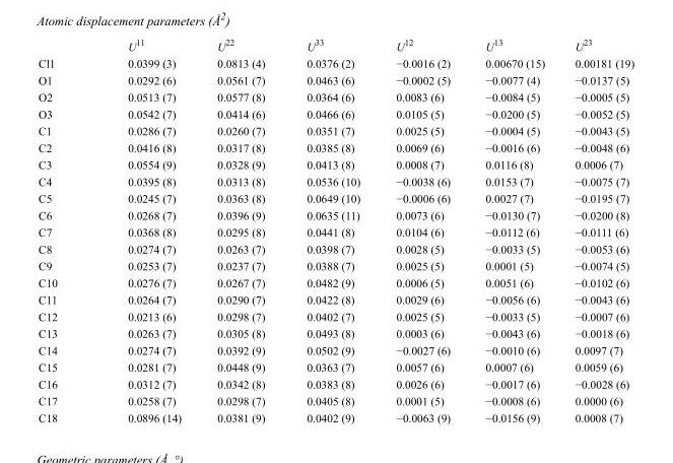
<table><thead><tr><td></td><td>U<sup>11</sup></td><td>U<sup>22</sup></td><td>U<sup>33</sup></td><td>U<sup>12</sup></td><td>U<sup>13</sup></td><td>U<sup>23</sup></td></tr></thead><tbody><tr><td>Cl1</td><td>0.0399 (3)</td><td>0.0813 (4)</td><td>0.0376 (2)</td><td>−0.0016 (2)</td><td>0.00670 (15)</td><td>0.00181 (19)</td></tr><tr><td>O1</td><td>0.0292 (6)</td><td>0.0561 (7)</td><td>0.0463 (6)</td><td>−0.0002 (5)</td><td>−0.0077 (4)</td><td>−0.0137 (5)</td></tr><tr><td>O2</td><td>0.0513 (7)</td><td>0.0577 (8)</td><td>0.0364 (6)</td><td>0.0083 (6)</td><td>−0.0084 (5)</td><td>−0.0005 (5)</td></tr><tr><td>O3</td><td>0.0542 (7)</td><td>0.0414 (6)</td><td>0.0466 (6)</td><td>0.0105 (5)</td><td>−0.0200 (5)</td><td>−0.0052 (5)</td></tr><tr><td>C1</td><td>0.0286 (7)</td><td>0.0260 (7)</td><td>0.0351 (7)</td><td>0.0025 (5)</td><td>−0.0004 (5)</td><td>−0.0043 (5)</td></tr><tr><td>C2</td><td>0.0416 (8)</td><td>0.0317 (8)</td><td>0.0385 (8)</td><td>0.0069 (6)</td><td>−0.0016 (6)</td><td>−0.0048 (6)</td></tr><tr><td>C3</td><td>0.0554 (9)</td><td>0.0328 (9)</td><td>0.0413 (8)</td><td>0.0008 (7)</td><td>0.0116 (8)</td><td>0.0006 (7)</td></tr><tr><td>C4</td><td>0.0395 (8)</td><td>0.0313 (8)</td><td>0.0536 (10)</td><td>−0.0038 (6)</td><td>0.0153 (7)</td><td>−0.0075 (7)</td></tr><tr><td>C5</td><td>0.0245 (7)</td><td>0.0363 (8)</td><td>0.0649 (10)</td><td>−0.0006 (6)</td><td>0.0027 (7)</td><td>−0.0195 (7)</td></tr><tr><td>C6</td><td>0.0268 (7)</td><td>0.0396 (9)</td><td>0.0635 (11)</td><td>0.0073 (6)</td><td>−0.0130 (7)</td><td>−0.0200 (8)</td></tr><tr><td>C7</td><td>0.0368 (8)</td><td>0.0295 (8)</td><td>0.0441 (8)</td><td>0.0104 (6)</td><td>−0.0112 (6)</td><td>−0.0111 (6)</td></tr><tr><td>C8</td><td>0.0274 (7)</td><td>0.0263 (7)</td><td>0.0398 (7)</td><td>0.0028 (5)</td><td>−0.0033 (5)</td><td>−0.0053 (6)</td></tr><tr><td>C9</td><td>0.0253 (7)</td><td>0.0237 (7)</td><td>0.0388 (7)</td><td>0.0025 (5)</td><td>0.0001 (5)</td><td>−0.0074 (5)</td></tr><tr><td>C10</td><td>0.0276 (7)</td><td>0.0267 (7)</td><td>0.0482 (9)</td><td>0.0006 (5)</td><td>0.0051 (6)</td><td>−0.0102 (6)</td></tr><tr><td>C11</td><td>0.0264 (7)</td><td>0.0290 (7)</td><td>0.0422 (8)</td><td>0.0029 (6)</td><td>−0.0056 (6)</td><td>−0.0043 (6)</td></tr><tr><td>C12</td><td>0.0213 (6)</td><td>0.0298 (7)</td><td>0.0402 (7)</td><td>0.0025 (5)</td><td>−0.0033 (5)</td><td>−0.0007 (6)</td></tr><tr><td>C13</td><td>0.0263 (7)</td><td>0.0305 (8)</td><td>0.0493 (8)</td><td>0.0003 (6)</td><td>−0.0043 (6)</td><td>−0.0018 (6)</td></tr><tr><td>C14</td><td>0.0274 (7)</td><td>0.0392 (9)</td><td>0.0502 (9)</td><td>−0.0027 (6)</td><td>−0.0010 (6)</td><td>0.0097 (7)</td></tr><tr><td>C15</td><td>0.0281 (7)</td><td>0.0448 (9)</td><td>0.0363 (7)</td><td>0.0057 (6)</td><td>0.0007 (6)</td><td>0.0059 (6)</td></tr><tr><td>C16</td><td>0.0312 (7)</td><td>0.0342 (8)</td><td>0.0383 (8)</td><td>0.0026 (6)</td><td>−0.0017 (6)</td><td>−0.0028 (6)</td></tr><tr><td>C17</td><td>0.0258 (7)</td><td>0.0298 (7)</td><td>0.0405 (8)</td><td>0.0001 (5)</td><td>−0.0008 (6)</td><td>0.0000 (6)</td></tr><tr><td>C18</td><td>0.0896 (14)</td><td>0.0381 (9)</td><td>0.0402 (9)</td><td>−0.0063 (9)</td><td>−0.0156 (9)</td><td>0.0008 (7)</td></tr></tbody></table>